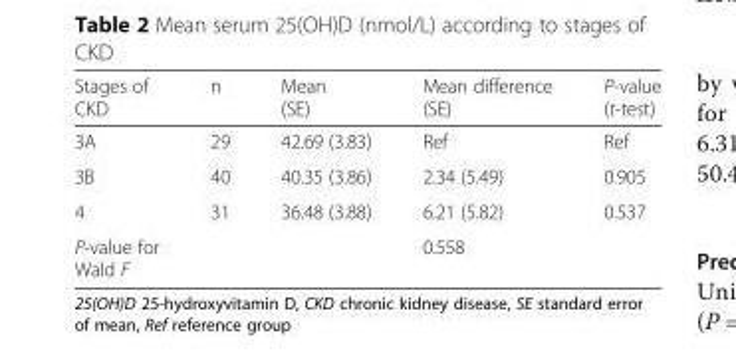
<table><thead><tr><td>Stages of CKD</td><td>n</td><td>Mean (SE)</td><td>Mean difference (SE)</td><td>P-value (t-test)</td></tr></thead><tbody><tr><td>3A</td><td>29</td><td>42.69 (3.83)</td><td>Ref</td><td>Ref</td></tr><tr><td>3B</td><td>40</td><td>40.35 (3.86)</td><td>2.34 (5.49)</td><td>0.905</td></tr><tr><td>4</td><td>31</td><td>36.48 (3.88)</td><td>6.21 (5.82)</td><td>0.537</td></tr><tr><td>P-value for Wald F</td><td></td><td></td><td>0.558</td><td></td></tr></tbody></table>